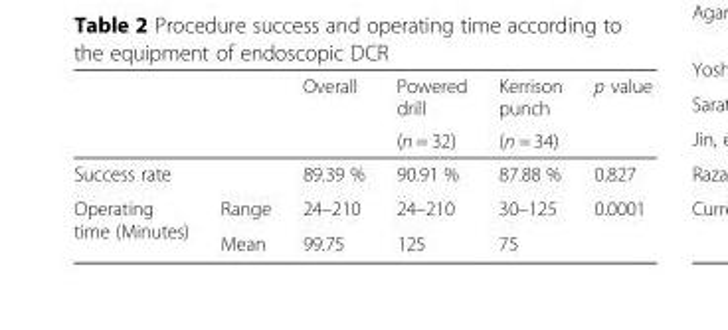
<table><thead><tr><td rowspan="2"></td><td rowspan="2"></td><td rowspan="2">Overall</td><td rowspan="2">Powered drill (n = 32)</td><td rowspan="2">Kerrison punch (n = 34)</td><td rowspan="2">p value</td></tr><tr></tr></thead><tbody><tr><td colspan="2">Success rate</td><td>89.39 %</td><td>90.91 %</td><td>87.88 %</td><td>0.827</td></tr><tr><td rowspan="2">Operating time (Minutes)</td><td>Range</td><td>24–210</td><td>24–210</td><td>30–125</td><td rowspan="2">0.0001</td></tr><tr><td>Mean</td><td>99.75</td><td>125</td><td>75</td></tr></tbody></table>